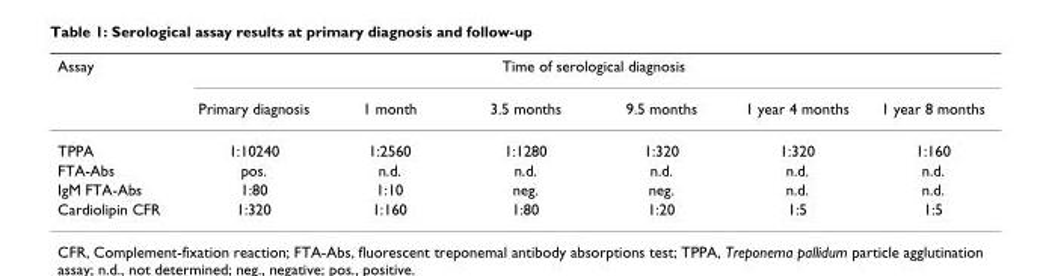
<table><thead><tr><td rowspan="2">Assay</td><td colspan="6">Time of serological diagnosis</td></tr><tr><td>Primary diagnosis</td><td>1 month</td><td>3.5 months</td><td>9.5 months</td><td>1 year 4 months</td><td>1 year 8 months</td></tr></thead><tbody><tr><td>TPPA</td><td>1:10240</td><td>1:2560</td><td>1:1280</td><td>1:320</td><td>1:320</td><td>1:160</td></tr><tr><td>FTA-Abs</td><td>pos.</td><td>n.d.</td><td>n.d.</td><td>n.d.</td><td>n.d.</td><td>n.d.</td></tr><tr><td>IgM FTA-Abs</td><td>1:80</td><td>1:10</td><td>neg.</td><td>neg.</td><td>n.d.</td><td>n.d.</td></tr><tr><td>Cardiolipin CFR</td><td>1:320</td><td>1:160</td><td>1:80</td><td>1:20</td><td>1:5</td><td>1:5</td></tr></tbody></table>